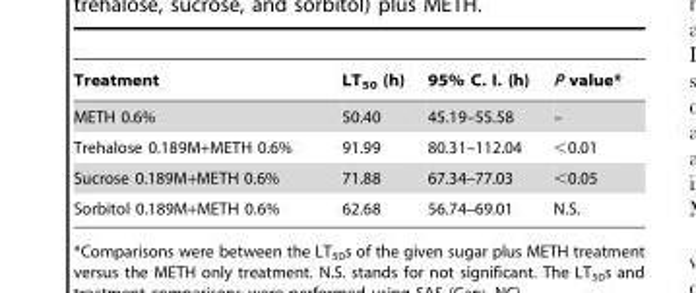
<table><thead><tr><td>Treatment</td><td>LT<sub>50</sub> (h)</td><td>95% C. I. (h)</td><td>P value*</td></tr></thead><tbody><tr><td>METH 0.6%</td><td>50.40</td><td>45.19–55.58</td><td>–</td></tr><tr><td>Trehalose 0.189M+METH 0.6%</td><td>91.99</td><td>80.31–112.04</td><td>&lt;0.01</td></tr><tr><td>Sucrose 0.189M+METH 0.6%</td><td>71.88</td><td>67.34–77.03</td><td>&lt;0.05</td></tr><tr><td>Sorbitol 0.189M+METH 0.6%</td><td>62.68</td><td>56.74–69.01</td><td>N.S.</td></tr></tbody></table>